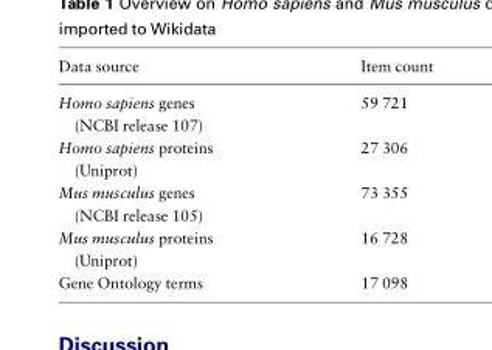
<table><thead><tr><td>Data source</td><td>Item count</td></tr></thead><tbody><tr><td>Homo sapiens genes (NCBI release 107)</td><td>59 721</td></tr><tr><td>Homo sapiens proteins (Uniprot)</td><td>27 306</td></tr><tr><td>Mus musculus genes (NCBI release 105)</td><td>73 355</td></tr><tr><td>Mus musculus proteins (Uniprot)</td><td>16 728</td></tr><tr><td>Gene Ontology terms</td><td>17 098</td></tr></tbody></table>